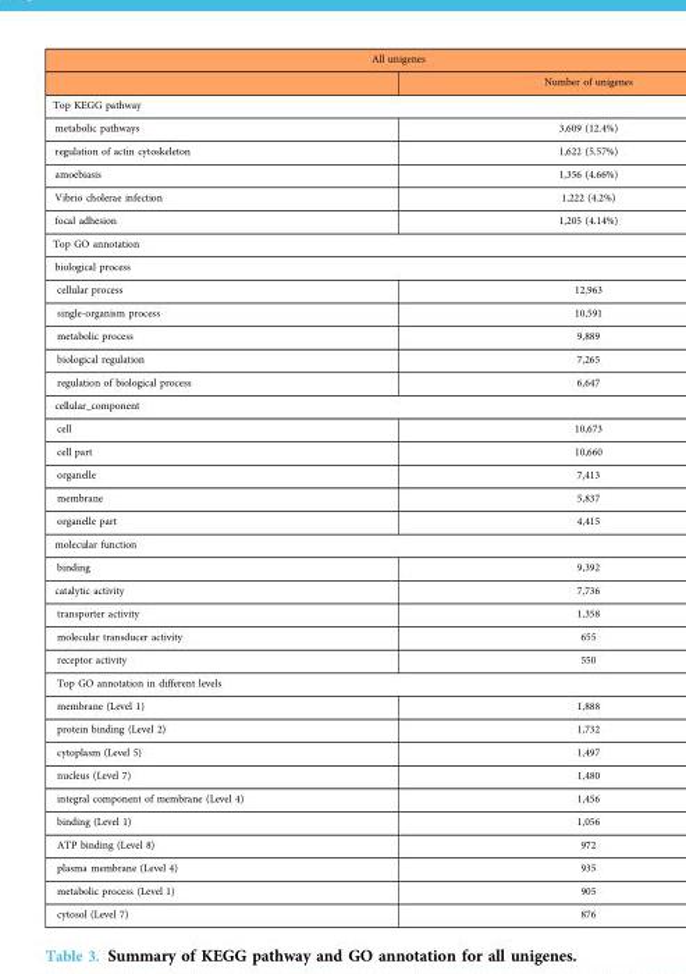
<table><thead><tr><td colspan="2">All unigenes</td></tr><tr><td></td><td>Number of unigenes</td></tr></thead><tbody><tr><td colspan="2">Top KEGG pathway</td></tr><tr><td>metabolic pathways</td><td>3,609 (12.4%)</td></tr><tr><td>regulation of actin cytoskeleton</td><td>1,622 (5.57%)</td></tr><tr><td>amoebiasis</td><td>1,356 (4.66%)</td></tr><tr><td>Vibrio cholerae infection</td><td>1,222 (4.2%)</td></tr><tr><td>focal adhesion</td><td>1,205 (4.14%)</td></tr><tr><td colspan="2">Top GO annotation</td></tr><tr><td colspan="2">biological process</td></tr><tr><td>cellular process</td><td>12,963</td></tr><tr><td>single-organism process</td><td>10,591</td></tr><tr><td>metabolic process</td><td>9,889</td></tr><tr><td>biological regulation</td><td>7,265</td></tr><tr><td>regulation of biological process</td><td>6,647</td></tr><tr><td colspan="2">cellular_component</td></tr><tr><td>cell</td><td>10,673</td></tr><tr><td>cell part</td><td>10,660</td></tr><tr><td>organelle</td><td>7,413</td></tr><tr><td>membrane</td><td>5,837</td></tr><tr><td>organelle part</td><td>4,415</td></tr><tr><td colspan="2">molecular function</td></tr><tr><td>binding</td><td>9,392</td></tr><tr><td>catalytic activity</td><td>7,736</td></tr><tr><td>transporter activity</td><td>1,358</td></tr><tr><td>molecular transducer activity</td><td>655</td></tr><tr><td>receptor activity</td><td>550</td></tr><tr><td colspan="2">Top GO annotation in different levels</td></tr><tr><td>membrane (Level 1)</td><td>1,888</td></tr><tr><td>protein binding (Level 2)</td><td>1,732</td></tr><tr><td>cytoplasm (Level 5)</td><td>1,497</td></tr><tr><td>nucleus (Level 7)</td><td>1,480</td></tr><tr><td>integral component of membrane (Level 4)</td><td>1,456</td></tr><tr><td>binding (Level 1)</td><td>1,056</td></tr><tr><td>ATP binding (Level 8)</td><td>972</td></tr><tr><td>plasma membrane (Level 4)</td><td>935</td></tr><tr><td>metabolic process (Level 1)</td><td>905</td></tr><tr><td>cytosol (Level 7)</td><td>876</td></tr></tbody></table>